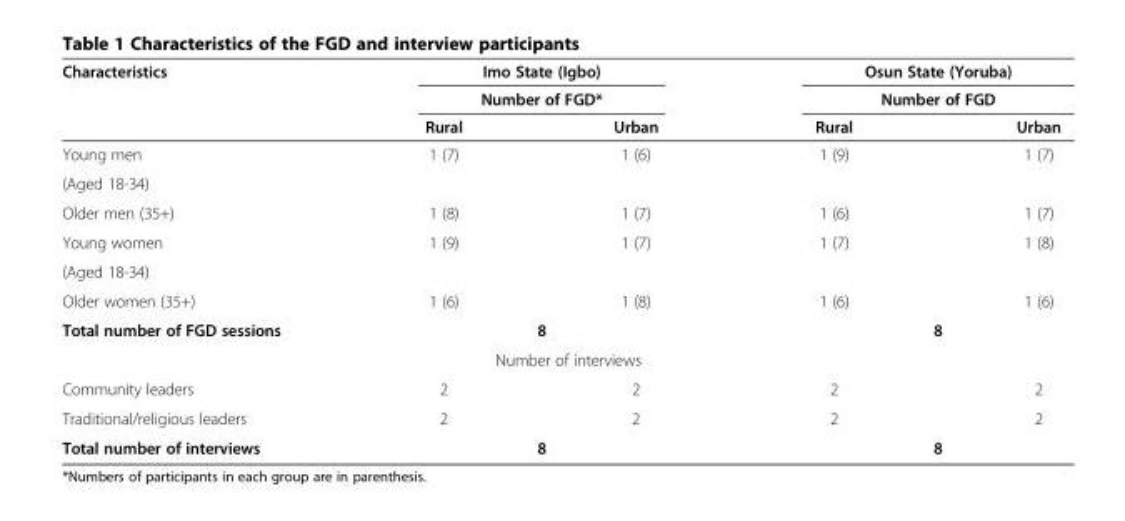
<table><thead><tr><td rowspan="3">Characteristics</td><td rowspan="2" colspan="2">Imo State (Igbo) Number of FGD*</td><td rowspan="2" colspan="2">Osun State (Yoruba) Number of FGD</td></tr><tr></tr><tr><td>Rural</td><td>Urban</td><td>Rural</td><td>Urban</td></tr></thead><tbody><tr><td>Young men</td><td rowspan="2">1 (7)</td><td rowspan="2">1 (6)</td><td rowspan="2">1 (9)</td><td rowspan="2">1 (7)</td></tr><tr><td>(Aged 18-34)</td></tr><tr><td>Older men (35+)</td><td>1 (8)</td><td>1 (7)</td><td>1 (6)</td><td>1 (7)</td></tr><tr><td>Young women</td><td rowspan="2">1 (9)</td><td rowspan="2">1 (7)</td><td rowspan="2">1 (7)</td><td rowspan="2">1 (8)</td></tr><tr><td>(Aged 18-34)</td></tr><tr><td>Older women (35+)</td><td>1 (6)</td><td>1 (8)</td><td>1 (6)</td><td>1 (6)</td></tr><tr><td rowspan="2">Total number of FGD sessions</td><td colspan="2">8</td><td colspan="2">8</td></tr><tr><td colspan="2">Number of interviews</td><td></td><td></td></tr><tr><td>Community leaders</td><td>2</td><td>2</td><td>2</td><td>2</td></tr><tr><td>Traditional/religious leaders</td><td>2</td><td>2</td><td>2</td><td>2</td></tr><tr><td>Total number of interviews</td><td colspan="2">8</td><td colspan="2">8</td></tr></tbody></table>